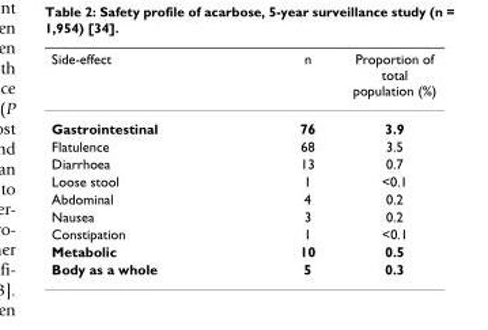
<table><thead><tr><td>Side-effect</td><td>n</td><td>Proportion of total population (%)</td></tr></thead><tbody><tr><td>Gastrointestinal</td><td>76</td><td>3.9</td></tr><tr><td>Flatulence</td><td>68</td><td>3.5</td></tr><tr><td>Diarrhoea</td><td>13</td><td>0.7</td></tr><tr><td>Loose stool</td><td>1</td><td>&lt;0.1</td></tr><tr><td>Abdominal</td><td>4</td><td>0.2</td></tr><tr><td>Nausea</td><td>3</td><td>0.2</td></tr><tr><td>Constipation</td><td>1</td><td>&lt;0.1</td></tr><tr><td>Metabolic</td><td>10</td><td>0.5</td></tr><tr><td>Body as a whole</td><td>5</td><td>0.3</td></tr></tbody></table>